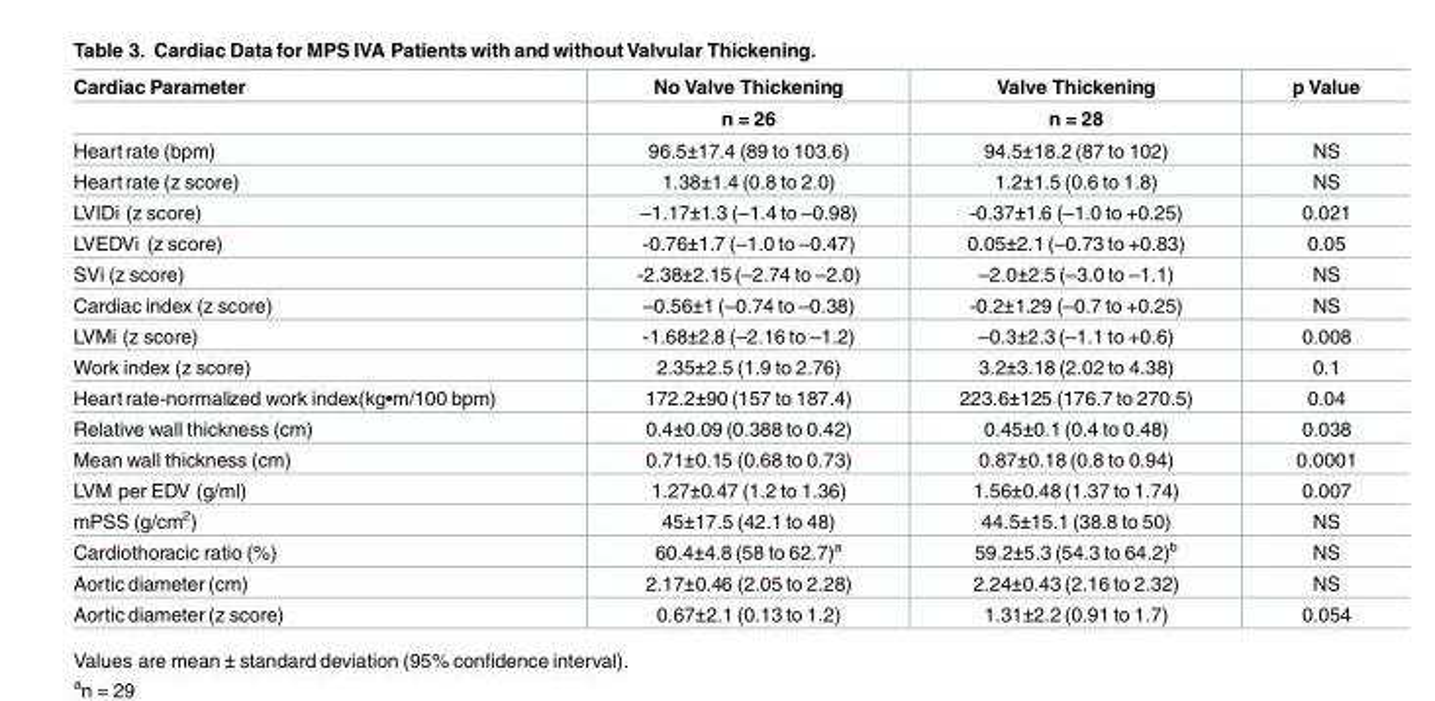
<table><thead><tr><td rowspan="2">Cardiac Parameter</td><td rowspan="2">No Valve Thickening n = 26</td><td rowspan="2">Valve Thickening n = 28</td><td rowspan="2">p Value</td></tr><tr></tr></thead><tbody><tr><td>Heart rate (bpm)</td><td>96.5±17.4 (89 to 103.6)</td><td>94.5±18.2 (87 to 102)</td><td>NS</td></tr><tr><td>Heart rate (z score)</td><td>1.38±1.4 (0.8 to 2.0)</td><td>1.2±1.5 (0.6 to 1.8)</td><td>NS</td></tr><tr><td>LVIDi (z score)</td><td>–1.17±1.3 (–1.4 to –0.98)</td><td>-0.37±1.6 (–1.0 to +0.25)</td><td>0.021</td></tr><tr><td>LVEDVi (z score)</td><td>-0.76±1.7 (–1.0 to –0.47)</td><td>0.05±2.1 (–0.73 to +0.83)</td><td>0.05</td></tr><tr><td>SVi (z score)</td><td>-2.38±2.15 (–2.74 to –2.0)</td><td>–2.0±2.5 (–3.0 to –1.1)</td><td>NS</td></tr><tr><td>Cardiac index (z score)</td><td>–0.56±1 (–0.74 to –0.38)</td><td>-0.2±1.29 (–0.7 to +0.25)</td><td>NS</td></tr><tr><td>LVMi (z score)</td><td>-1.68±2.8 (–2.16 to –1.2)</td><td>–0.3±2.3 (–1.1 to +0.6)</td><td>0.008</td></tr><tr><td>Work index (z score)</td><td>2.35±2.5 (1.9 to 2.76)</td><td>3.2±3.18 (2.02 to 4.38)</td><td>0.1</td></tr><tr><td>Heart rate-normalized work index(kg•m/100 bpm)</td><td>172.2±90 (157 to 187.4)</td><td>223.6±125 (176.7 to 270.5)</td><td>0.04</td></tr><tr><td>Relative wall thickness (cm)</td><td>0.4±0.09 (0.388 to 0.42)</td><td>0.45±0.1 (0.4 to 0.48)</td><td>0.038</td></tr><tr><td>Mean wall thickness (cm)</td><td>0.71±0.15 (0.68 to 0.73)</td><td>0.87±0.18 (0.8 to 0.94)</td><td>0.0001</td></tr><tr><td>LVM per EDV (g/ml)</td><td>1.27±0.47 (1.2 to 1.36)</td><td>1.56±0.48 (1.37 to 1.74)</td><td>0.007</td></tr><tr><td>mPSS (g/cm<sup>2</sup>)</td><td>45±17.5 (42.1 to 48)</td><td>44.5±15.1 (38.8 to 50)</td><td>NS</td></tr><tr><td>Cardiothoracic ratio (%)</td><td>60.4±4.8 (58 to 62.7)<sup>a</sup></td><td>59.2±5.3 (54.3 to 64.2)<sup>b</sup></td><td>NS</td></tr><tr><td>Aortic diameter (cm)</td><td>2.17±0.46 (2.05 to 2.28)</td><td>2.24±0.43 (2.16 to 2.32)</td><td>NS</td></tr><tr><td>Aortic diameter (z score)</td><td>0.67±2.1 (0.13 to 1.2)</td><td>1.31±2.2 (0.91 to 1.7)</td><td>0.054</td></tr></tbody></table>